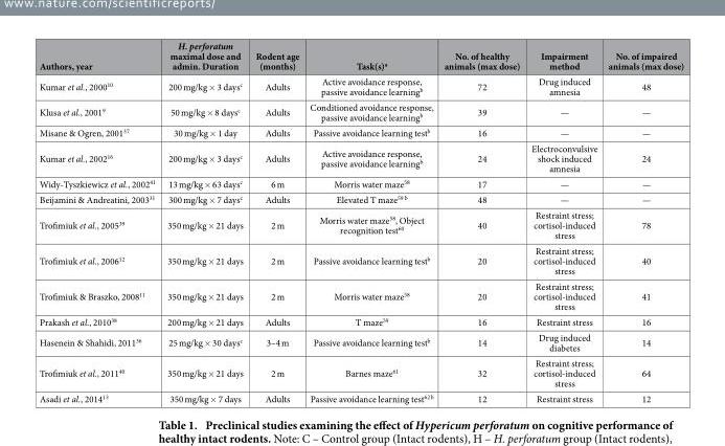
<table><thead><tr><td>Authors, year</td><td>H. perforatum maximal dose and admin. Duration</td><td>Rodent age (months)</td><td>Task(s)<sup>a</sup></td><td>No. of healthy animals (max dose)</td><td>Impairment method</td><td>No. of impaired animals (max dose)</td></tr></thead><tbody><tr><td>Kumar et al., 2000<sup>10</sup></td><td>200 mg/kg × 3 days<sup>c</sup></td><td>Adults</td><td>Active avoidance response, passive avoidance learning<sup>b</sup></td><td>72</td><td>Drug induced amnesia</td><td>48</td></tr><tr><td>Klusa et al., 2001<sup>9</sup></td><td>50 mg/kg × 8 days<sup>c</sup></td><td>Adults</td><td>Conditioned avoidance response, passive avoidance learning<sup>b</sup></td><td>39</td><td>—</td><td>—</td></tr><tr><td>Misane &amp; Ogren, 2001<sup>37</sup></td><td>30 mg/kg × 1 day</td><td>Adults</td><td>Passive avoidance learning test<sup>b</sup></td><td>16</td><td>—</td><td>—</td></tr><tr><td>Kumar et al., 2002<sup>16</sup></td><td>200 mg/kg × 3 days<sup>c</sup></td><td>Adults</td><td>Active avoidance response, passive avoidance learning<sup>b</sup></td><td>24</td><td>Electroconvulsive shock induced amnesia</td><td>24</td></tr><tr><td>Widy-Tyszkiewicz et al., 2002<sup>41</sup></td><td>13 mg/kg × 63 days<sup>c</sup></td><td>6 m</td><td>Morris water maze<sup>58</sup></td><td>17</td><td>—</td><td>—</td></tr><tr><td>Beijamini &amp; Andreatini, 2003<sup>31</sup></td><td>300 mg/kg × 7 days<sup>c</sup></td><td>Adults</td><td>Elevated T maze<sup>59 b</sup></td><td>48</td><td>—</td><td>—</td></tr><tr><td>Trofimiuk et al., 2005<sup>39</sup></td><td>350 mg/kg × 21 days</td><td>2 m</td><td>Morris water maze<sup>58</sup>, Object recognition test<sup>60</sup></td><td>40</td><td>Restraint stress; cortisol-induced stress</td><td>78</td></tr><tr><td>Trofimiuk et al., 2006<sup>12</sup></td><td>350 mg/kg × 21 days</td><td>2 m</td><td>Passive avoidance learning test<sup>b</sup></td><td>20</td><td>Restraint stress; cortisol-induced stress</td><td>40</td></tr><tr><td>Trofimiuk &amp; Braszko, 2008<sup>11</sup></td><td>350 mg/kg × 21 days</td><td>2 m</td><td>Morris water maze<sup>58</sup></td><td>20</td><td>Restraint stress; cortisol-induced stress</td><td>41</td></tr><tr><td>Prakash et al., 2010<sup>38</sup></td><td>200 mg/kg × 21 days</td><td>Adults</td><td>T maze<sup>59</sup></td><td>16</td><td>Restraint stress</td><td>16</td></tr><tr><td>Hasenein &amp; Shahidi, 2011<sup>36</sup></td><td>25 mg/kg × 30 days<sup>c</sup></td><td>3–4 m</td><td>Passive avoidance learning test<sup>b</sup></td><td>14</td><td>Drug induced diabetes</td><td>14</td></tr><tr><td>Trofimiuk et al., 2011<sup>40</sup></td><td>350 mg/kg × 21 days</td><td>2 m</td><td>Barnes maze<sup>61</sup></td><td>32</td><td>Restraint stress; cortisol-induced stress</td><td>64</td></tr><tr><td>Asadi et al., 2014<sup>13</sup></td><td>350 mg/kg × 7 days</td><td>Adults</td><td>Passive avoidance learning test<sup>62</sup> b</td><td>12</td><td>Restraint stress</td><td>12</td></tr></tbody></table>